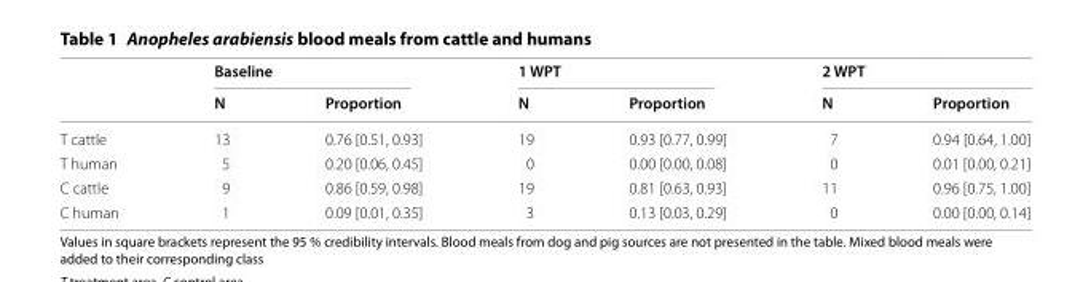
<table><thead><tr><td rowspan="2"></td><td colspan="2">Baseline</td><td colspan="2">1 WPT</td><td colspan="2">2 WPT</td></tr><tr><td>N</td><td>Proportion</td><td>N</td><td>Proportion</td><td>N</td><td>Proportion</td></tr></thead><tbody><tr><td>T cattle</td><td>13</td><td>0.76 [0.51, 0.93]</td><td>19</td><td>0.93 [0.77, 0.99]</td><td>7</td><td>0.94 [0.64, 1.00]</td></tr><tr><td>T human</td><td>5</td><td>0.20 [0.06, 0.45]</td><td>0</td><td>0.00 [0.00, 0.08]</td><td>0</td><td>0.01 [0.00, 0.21]</td></tr><tr><td>C cattle</td><td>9</td><td>0.86 [0.59, 0.98]</td><td>19</td><td>0.81 [0.63, 0.93]</td><td>11</td><td>0.96 [0.75, 1.00]</td></tr><tr><td>C human</td><td>1</td><td>0.09 [0.01, 0.35]</td><td>3</td><td>0.13 [0.03, 0.29]</td><td>0</td><td>0.00 [0.00, 0.14]</td></tr></tbody></table>